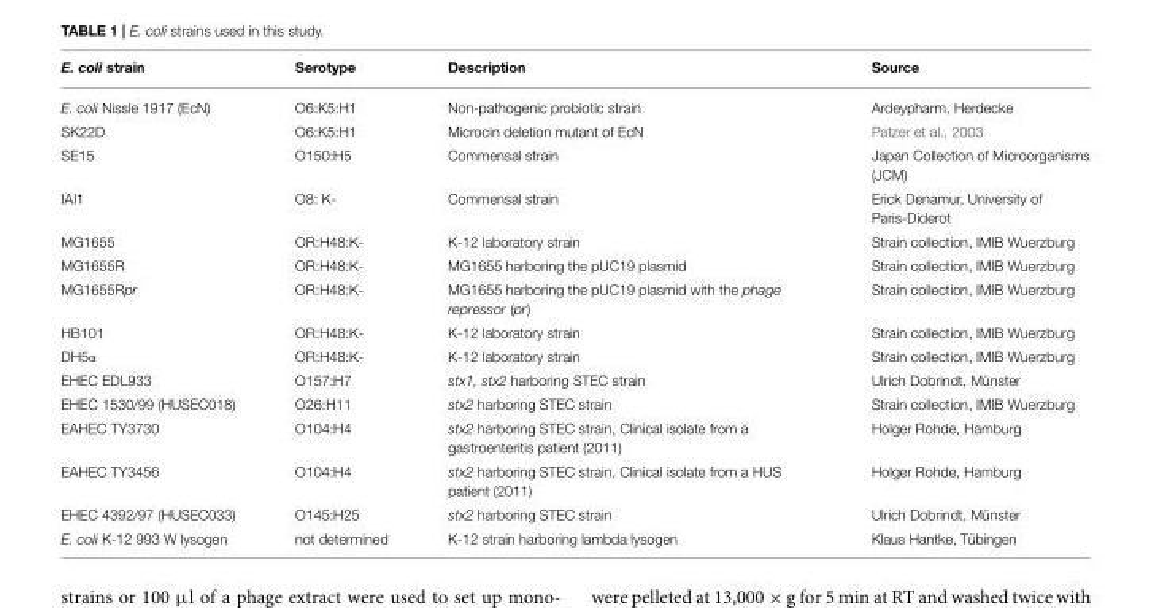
<table><thead><tr><td>E. coli strain</td><td>Serotype</td><td>Description</td><td>Source</td></tr></thead><tbody><tr><td>E. coli Nissle 1917 (EcN)</td><td>O6:K5:H1</td><td>Non-pathogenic probiotic strain</td><td>Ardeypharm, Herdecke</td></tr><tr><td>SK22D</td><td>O6:K5:H1</td><td>Microcin deletion mutant of EcN</td><td>Patzer et al., 2003</td></tr><tr><td>SE15</td><td>O150:H5</td><td>Commensal strain</td><td>Japan Collection of Microorganisms (JCM)</td></tr><tr><td>IAI1</td><td>O8: K-</td><td>Commensal strain</td><td>Erick Denamur, University of Paris-Diderot</td></tr><tr><td>MG1655</td><td>OR:H48:K-</td><td>K-12 laboratory strain</td><td>Strain collection, IMIB Wuerzburg</td></tr><tr><td>MG1655R</td><td>OR:H48:K-</td><td>MG1655 harboring the pUC19 plasmid</td><td>Strain collection, IMIB Wuerzburg</td></tr><tr><td>MG1655Rpr</td><td>OR:H48:K-</td><td>MG1655 harboring the pUC19 plasmid with the phage repressor (pr)</td><td>Strain collection, IMIB Wuerzburg</td></tr><tr><td>HB101</td><td>OR:H48:K-</td><td>K-12 laboratory strain</td><td>Strain collection, IMIB Wuerzburg</td></tr><tr><td>DH5α</td><td>OR:H48:K-</td><td>K-12 laboratory strain</td><td>Strain collection, IMIB Wuerzburg</td></tr><tr><td>EHEC EDL933</td><td>O157:H7</td><td>stx1, stx2 harboring STEC strain</td><td>Ulrich Dobrindt, Münster</td></tr><tr><td>EHEC 1530/99 (HUSEC018)</td><td>O26:H11</td><td>stx2 harboring STEC strain</td><td>Strain collection, IMIB Wuerzburg</td></tr><tr><td>EAHEC TY3730</td><td>O104:H4</td><td>stx2 harboring STEC strain, Clinical isolate from a gastroenteritis patient (2011)</td><td>Holger Rohde, Hamburg</td></tr><tr><td>EAHEC TY3456</td><td>O104:H4</td><td>stx2 harboring STEC strain, Clinical isolate from a HUS patient (2011)</td><td>Holger Rohde, Hamburg</td></tr><tr><td>EHEC 4392/97 (HUSEC033)</td><td>O145:H25</td><td>stx2 harboring STEC strain</td><td>Ulrich Dobrindt, Münster</td></tr><tr><td>E. coli K-12 993 W lysogen</td><td>not determined</td><td>K-12 strain harboring lambda lysogen</td><td>Klaus Hantke, Tübingen</td></tr></tbody></table>